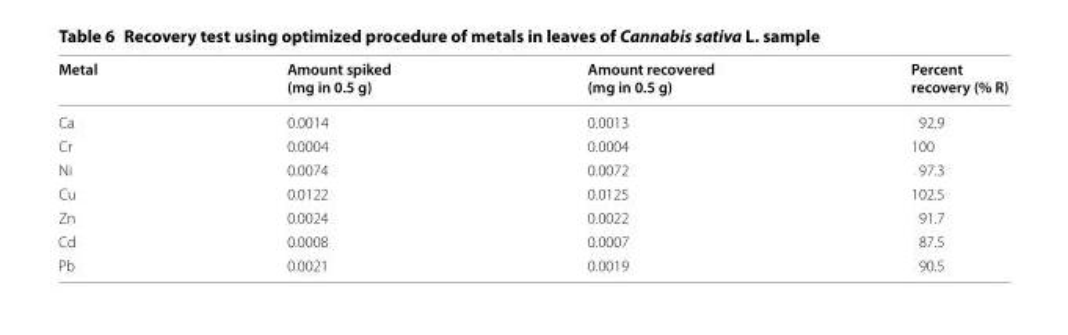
<table><thead><tr><td>Metal</td><td>Amount spiked (mg in 0.5 g)</td><td>Amount recovered (mg in 0.5 g)</td><td>Percent recovery (% R)</td></tr></thead><tbody><tr><td>Ca</td><td>0.0014</td><td>0.0013</td><td>92.9</td></tr><tr><td>Cr</td><td>0.0004</td><td>0.0004</td><td>100</td></tr><tr><td>Ni</td><td>0.0074</td><td>0.0072</td><td>97.3</td></tr><tr><td>Cu</td><td>0.0122</td><td>0.0125</td><td>102.5</td></tr><tr><td>Zn</td><td>0.0024</td><td>0.0022</td><td>91.7</td></tr><tr><td>Cd</td><td>0.0008</td><td>0.0007</td><td>87.5</td></tr><tr><td>Pb</td><td>0.0021</td><td>0.0019</td><td>90.5</td></tr></tbody></table>